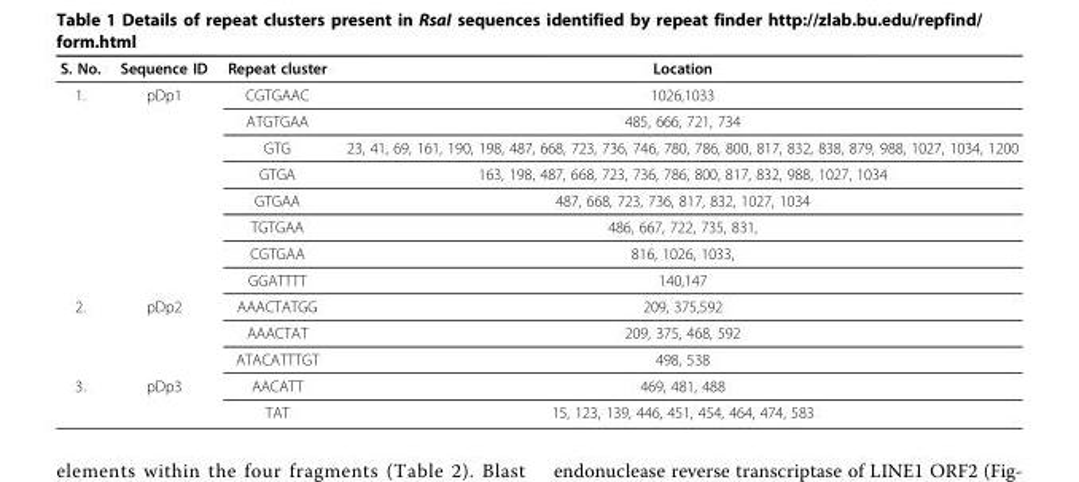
<table><thead><tr><td>S. No.</td><td>Sequence ID</td><td>Repeat cluster</td><td>Location</td></tr></thead><tbody><tr><td rowspan="8">1.</td><td>pDp1</td><td>CGTGAAC</td><td>1026,1033</td></tr><tr><td></td><td>ATGTGAA</td><td>485, 666, 721, 734</td></tr><tr><td></td><td>GTG</td><td>23, 41, 69, 161, 190, 198, 487, 668, 723, 736, 746, 780, 786, 800, 817, 832, 838, 879, 988, 1027, 1034, 1200</td></tr><tr><td></td><td>GTGA</td><td>163, 198, 487, 668, 723, 736, 786, 800, 817, 832, 988, 1027, 1034</td></tr><tr><td></td><td>GTGAA</td><td>487, 668, 723, 736, 817, 832, 1027, 1034</td></tr><tr><td></td><td>TGTGAA</td><td>486, 667, 722, 735, 831,</td></tr><tr><td></td><td>CGTGAA</td><td>816, 1026, 1033,</td></tr><tr><td></td><td>GGATTTT</td><td>140,147</td></tr><tr><td rowspan="3">2.</td><td>pDp2</td><td>AAACTATGG</td><td>209, 375,592</td></tr><tr><td></td><td>AAACTAT</td><td>209, 375, 468, 592</td></tr><tr><td></td><td>ATACATTTGT</td><td>498, 538</td></tr><tr><td rowspan="2">3.</td><td>pDp3</td><td>AACATT</td><td>469, 481, 488</td></tr><tr><td></td><td>TAT</td><td>15, 123, 139, 446, 451, 454, 464, 474, 583</td></tr></tbody></table>